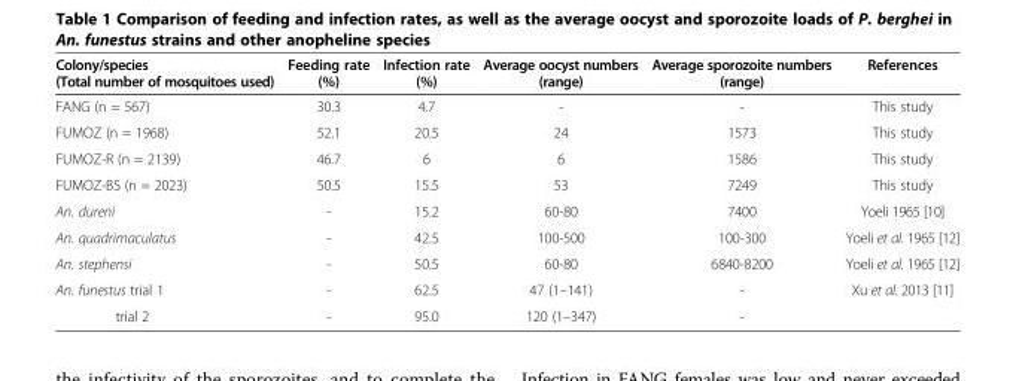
<table><thead><tr><td>Colony/species (Total number of mosquitoes used)</td><td>Feeding rate (%)</td><td>Infection rate (%)</td><td>Average oocyst numbers (range)</td><td>Average sporozoite numbers (range)</td><td>References</td></tr></thead><tbody><tr><td>FANG (n = 567)</td><td>30.3</td><td>4.7</td><td>-</td><td>-</td><td>This study</td></tr><tr><td>FUMOZ (n = 1968)</td><td>52.1</td><td>20.5</td><td>24</td><td>1573</td><td>This study</td></tr><tr><td>FUMOZ-R (n = 2139)</td><td>46.7</td><td>6</td><td>6</td><td>1586</td><td>This study</td></tr><tr><td>FUMOZ-BS (n = 2023)</td><td>50.5</td><td>15.5</td><td>53</td><td>7249</td><td>This study</td></tr><tr><td>An. dureni</td><td>-</td><td>15.2</td><td>60-80</td><td>7400</td><td>Yoeli 1965 [10]</td></tr><tr><td>An. quadrimaculatus</td><td>-</td><td>42.5</td><td>100-500</td><td>100-300</td><td>Yoeli et al. 1965 [12]</td></tr><tr><td>An. stephensi</td><td>-</td><td>50.5</td><td>60-80</td><td>6840-8200</td><td>Yoeli et al. 1965 [12]</td></tr><tr><td>An. funestus trial 1</td><td>-</td><td>62.5</td><td>47 (1–141)</td><td>-</td><td>Xu et al. 2013 [11]</td></tr><tr><td>trial 2</td><td>-</td><td>95.0</td><td>120 (1–347)</td><td>-</td><td></td></tr></tbody></table>